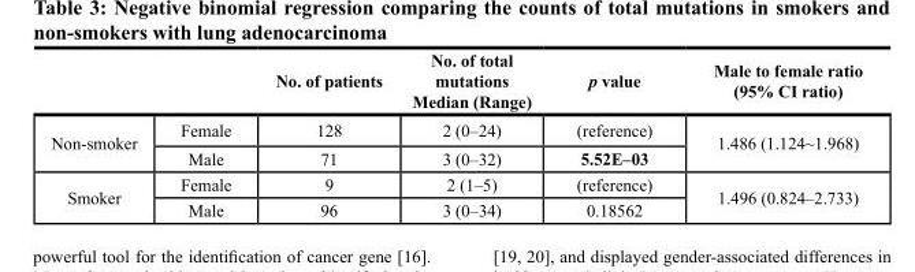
<table><thead><tr><td></td><td></td><td>No. of patients</td><td>No. of total mutations Median (Range)</td><td>p value</td><td>Male to female ratio (95% CI ratio)</td></tr></thead><tbody><tr><td rowspan="2">Non-smoker</td><td>Female</td><td>128</td><td>2 (0–24)</td><td>(reference)</td><td rowspan="2">1.486 (1.124~1.968)</td></tr><tr><td>Male</td><td>71</td><td>3 (0–32)</td><td>5.52E–03</td></tr><tr><td rowspan="2">Smoker</td><td>Female</td><td>9</td><td>2 (1–5)</td><td>(reference)</td><td rowspan="2">1.496 (0.824–2.733)</td></tr><tr><td>Male</td><td>96</td><td>3 (0–34)</td><td>0.18562</td></tr></tbody></table>